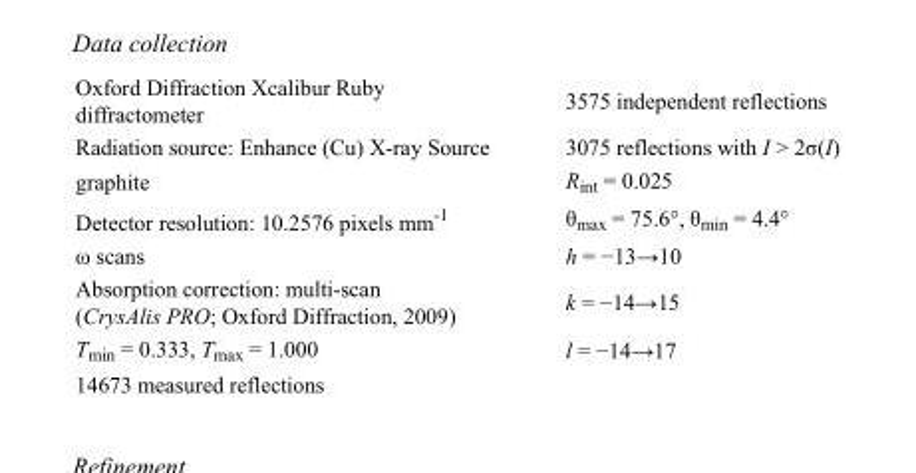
<table><tbody><tr><td>Oxford Diffraction Xcalibur Ruby diffractometer</td><td>3575 independent reflections</td></tr><tr><td>Radiation source: Enhance (Cu) X-ray Source</td><td>3075 reflections with I &gt; 2σ(I)</td></tr><tr><td>graphite</td><td>R<sub>int</sub> = 0.025</td></tr><tr><td>Detector resolution: 10.2576 pixels mm<sup>-1</sup></td><td>θ<sub>max</sub> = 75.6°, θ<sub>min</sub> = 4.4°</td></tr><tr><td>ω scans</td><td>h = −13→10</td></tr><tr><td>Absorption correction: multi-scan (CrysAlis PRO; Oxford Diffraction, 2009)</td><td>k = −14→15</td></tr><tr><td>T<sub>min</sub> = 0.333, T<sub>max</sub> = 1.000</td><td>l = −14→17</td></tr><tr><td>14673 measured reflections</td><td></td></tr></tbody></table>